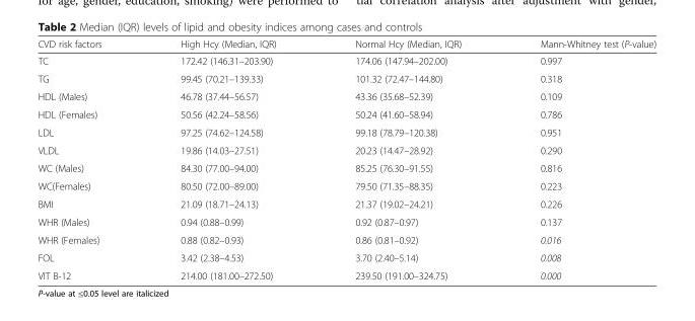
<table><thead><tr><td>CVD risk factors</td><td>High Hcy (Median, IQR)</td><td>Normal Hcy (Median, IQR)</td><td>Mann-Whitney test (P-value)</td></tr></thead><tbody><tr><td>TC</td><td>172.42 (146.31–203.90)</td><td>174.06 (147.94–202.00)</td><td>0.997</td></tr><tr><td>TG</td><td>99.45 (70.21–139.33)</td><td>101.32 (72.47–144.80)</td><td>0.318</td></tr><tr><td>HDL (Males)</td><td>46.78 (37.44–56.57)</td><td>43.36 (35.68–52.39)</td><td>0.109</td></tr><tr><td>HDL (Females)</td><td>50.56 (42.24–58.56)</td><td>50.24 (41.60–58.94)</td><td>0.786</td></tr><tr><td>LDL</td><td>97.25 (74.62–124.58)</td><td>99.18 (78.79–120.38)</td><td>0.951</td></tr><tr><td>VLDL</td><td>19.86 (14.03–27.51)</td><td>20.23 (14.47–28.92)</td><td>0.290</td></tr><tr><td>WC (Males)</td><td>84.30 (77.00–94.00)</td><td>85.25 (76.30–91.55)</td><td>0.816</td></tr><tr><td>WC(Females)</td><td>80.50 (72.00–89.00)</td><td>79.50 (71.35–88.35)</td><td>0.223</td></tr><tr><td>BMI</td><td>21.09 (18.71–24.13)</td><td>21.37 (19.02–24.21)</td><td>0.226</td></tr><tr><td>WHR (Males)</td><td>0.94 (0.88–0.99)</td><td>0.92 (0.87–0.97)</td><td>0.137</td></tr><tr><td>WHR (Females)</td><td>0.88 (0.82–0.93)</td><td>0.86 (0.81–0.92)</td><td>0.016</td></tr><tr><td>FOL</td><td>3.42 (2.38–4.53)</td><td>3.70 (2.40–5.14)</td><td>0.008</td></tr><tr><td>VIT B-12</td><td>214.00 (181.00–272.50)</td><td>239.50 (191.00–324.75)</td><td>0.000</td></tr></tbody></table>